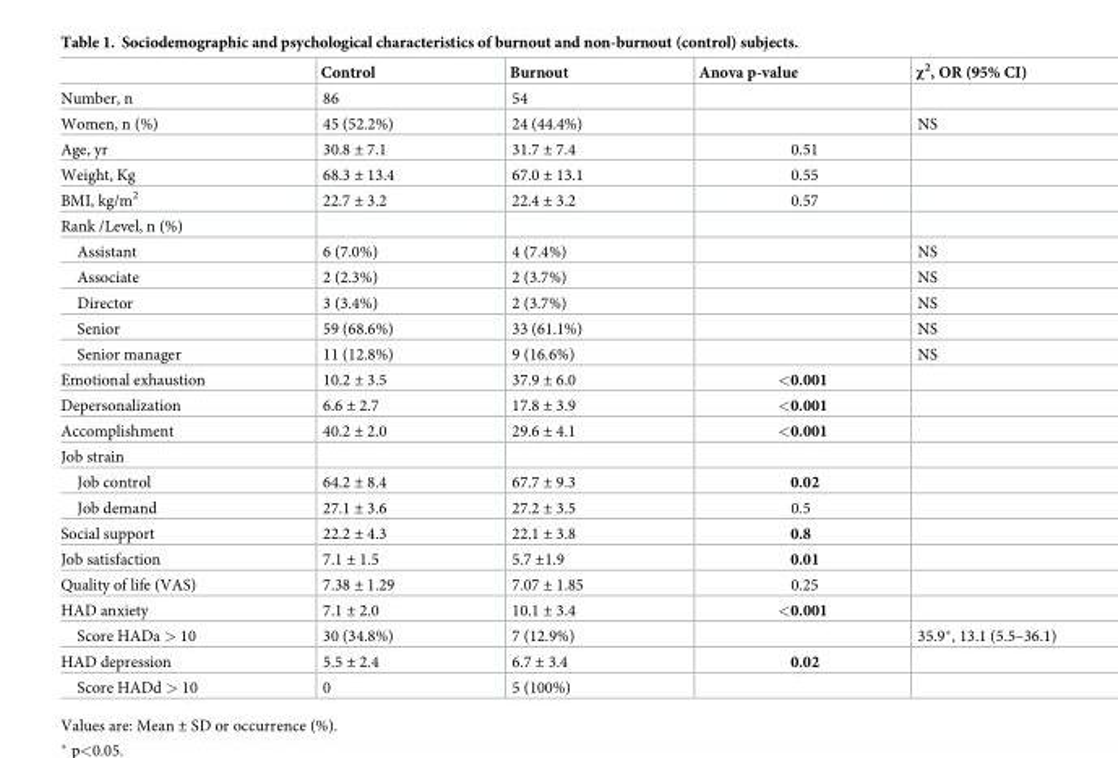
<table><thead><tr><td></td><td>Control</td><td>Burnout</td><td>Anova p-value</td><td>χ<sup>2</sup>, OR (95% CI)</td></tr></thead><tbody><tr><td>Number, n</td><td>86</td><td>54</td><td></td><td></td></tr><tr><td>Women, n (%)</td><td>45 (52.2%)</td><td>24 (44.4%)</td><td></td><td>NS</td></tr><tr><td>Age, yr</td><td>30.8 ± 7.1</td><td>31.7 ± 7.4</td><td>0.51</td><td></td></tr><tr><td>Weight, Kg</td><td>68.3 ± 13.4</td><td>67.0 ± 13.1</td><td>0.55</td><td></td></tr><tr><td>BMI, kg/m<sup>2</sup></td><td>22.7 ± 3.2</td><td>22.4 ± 3.2</td><td>0.57</td><td></td></tr><tr><td colspan="5">Rank /Level, n (%)</td></tr><tr><td>Assistant</td><td>6 (7.0%)</td><td>4 (7.4%)</td><td></td><td>NS</td></tr><tr><td>Associate</td><td>2 (2.3%)</td><td>2 (3.7%)</td><td></td><td>NS</td></tr><tr><td>Director</td><td>3 (3.4%)</td><td>2 (3.7%)</td><td></td><td>NS</td></tr><tr><td>Senior</td><td>59 (68.6%)</td><td>33 (61.1%)</td><td></td><td>NS</td></tr><tr><td>Senior manager</td><td>11 (12.8%)</td><td>9 (16.6%)</td><td></td><td>NS</td></tr><tr><td>Emotional exhaustion</td><td>10.2 ± 3.5</td><td>37.9 ± 6.0</td><td>&lt;0.001</td><td></td></tr><tr><td>Depersonalization</td><td>6.6 ± 2.7</td><td>17.8 ± 3.9</td><td>&lt;0.001</td><td></td></tr><tr><td>Accomplishment</td><td>40.2 ± 2.0</td><td>29.6 ± 4.1</td><td>&lt;0.001</td><td></td></tr><tr><td colspan="5">Job strain</td></tr><tr><td>Job control</td><td>64.2 ± 8.4</td><td>67.7 ± 9.3</td><td>0.02</td><td></td></tr><tr><td>Job demand</td><td>27.1 ± 3.6</td><td>27.2 ± 3.5</td><td>0.5</td><td></td></tr><tr><td>Social support</td><td>22.2 ± 4.3</td><td>22.1 ± 3.8</td><td>0.8</td><td></td></tr><tr><td>Job satisfaction</td><td>7.1 ± 1.5</td><td>5.7 ±1.9</td><td>0.01</td><td></td></tr><tr><td>Quality of life (VAS)</td><td>7.38 ± 1.29</td><td>7.07 ± 1.85</td><td>0.25</td><td></td></tr><tr><td>HAD anxiety</td><td>7.1 ± 2.0</td><td>10.1 ± 3.4</td><td>&lt;0.001</td><td></td></tr><tr><td>Score HADa &gt; 10</td><td>30 (34.8%)</td><td>7 (12.9%)</td><td></td><td>35.9*, 13.1 (5.5–36.1)</td></tr><tr><td>HAD depression</td><td>5.5 ± 2.4</td><td>6.7 ± 3.4</td><td>0.02</td><td></td></tr><tr><td>Score HADd &gt; 10</td><td>0</td><td>5 (100%)</td><td></td><td></td></tr></tbody></table>